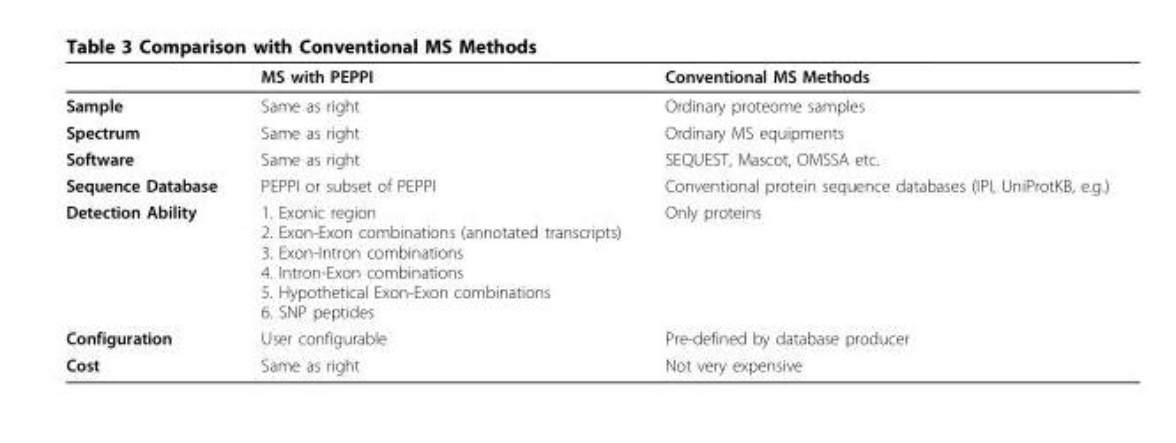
<table><thead><tr><td></td><td>MS with PEPPI</td><td>Conventional MS Methods</td></tr></thead><tbody><tr><td>Sample</td><td>Same as right</td><td>Ordinary proteome samples</td></tr><tr><td>Spectrum</td><td>Same as right</td><td>Ordinary MS equipments</td></tr><tr><td>Software</td><td>Same as right</td><td>SEQUEST, Mascot, OMSSA etc.</td></tr><tr><td>Sequence Database</td><td>PEPPI or subset of PEPPI</td><td>Conventional protein sequence databases (IPI, UniProtKB, e.g.)</td></tr><tr><td>Detection Ability</td><td>1. Exonic region 2. Exon-Exon combinations (annotated transcripts) 3. Exon-Intron combinations 4. Intron-Exon combinations 5. Hypothetical Exon-Exon combinations 6. SNP peptides</td><td>Only proteins</td></tr><tr><td>Configuration</td><td>User configurable</td><td>Pre-defined by database producer</td></tr><tr><td>Cost</td><td>Same as right</td><td>Not very expensive</td></tr></tbody></table>